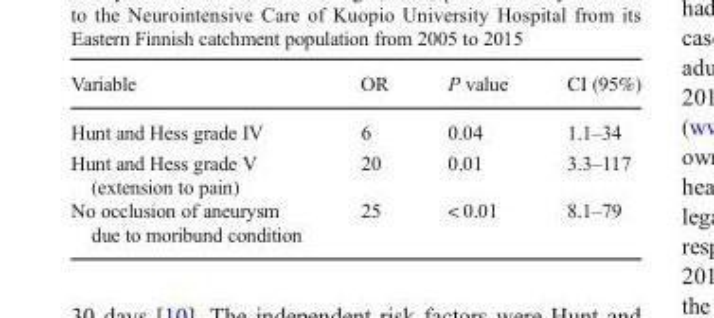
<table><thead><tr><td>Variable</td><td>OR</td><td>P value</td><td>CI (95%)</td></tr></thead><tbody><tr><td>Hunt and Hess grade IV</td><td>6</td><td>0.04</td><td>1.1–34</td></tr><tr><td>Hunt and Hess grade V (extension to pain)</td><td>20</td><td>0.01</td><td>3.3–117</td></tr><tr><td>No occlusion of aneurysm due to moribund condition</td><td>25</td><td>&lt; 0.01</td><td>8.1–79</td></tr></tbody></table>